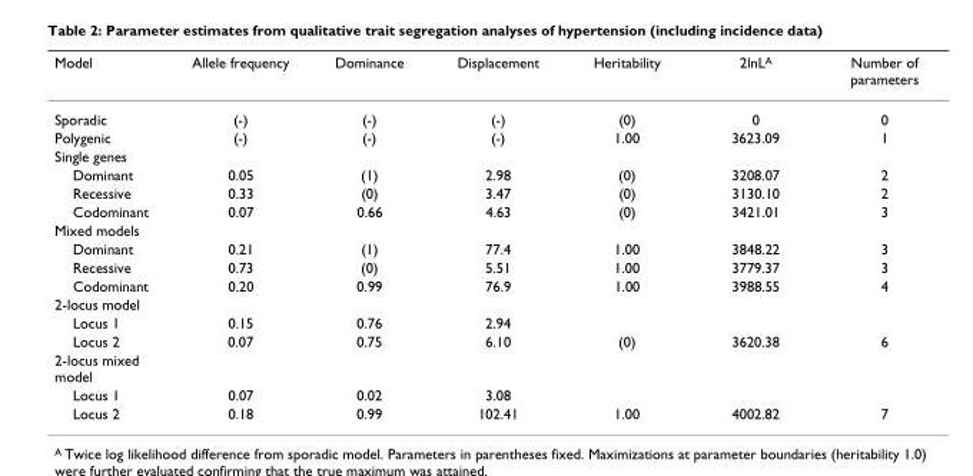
<table><thead><tr><td>Model</td><td>Allele frequency</td><td>Dominance</td><td>Displacement</td><td>Heritability</td><td>2lnLA</td><td>Number of parameters</td></tr></thead><tbody><tr><td>Sporadic</td><td>(-)</td><td>(-)</td><td>(-)</td><td>(0)</td><td>0</td><td>0</td></tr><tr><td>Polygenic</td><td>(-)</td><td>(-)</td><td>(-)</td><td>1.00</td><td>3623.09</td><td>1</td></tr><tr><td colspan="7">Single genes</td></tr><tr><td>Dominant</td><td>0.05</td><td>(1)</td><td>2.98</td><td>(0)</td><td>3208.07</td><td>2</td></tr><tr><td>Recessive</td><td>0.33</td><td>(0)</td><td>3.47</td><td>(0)</td><td>3130.10</td><td>2</td></tr><tr><td>Codominant</td><td>0.07</td><td>0.66</td><td>4.63</td><td>(0)</td><td>3421.01</td><td>3</td></tr><tr><td colspan="7">Mixed models</td></tr><tr><td>Dominant</td><td>0.21</td><td>(1)</td><td>77.4</td><td>1.00</td><td>3848.22</td><td>3</td></tr><tr><td>Recessive</td><td>0.73</td><td>(0)</td><td>5.51</td><td>1.00</td><td>3779.37</td><td>3</td></tr><tr><td>Codominant</td><td>0.20</td><td>0.99</td><td>76.9</td><td>1.00</td><td>3988.55</td><td>4</td></tr><tr><td colspan="7">2-locus model</td></tr><tr><td>Locus 1</td><td>0.15</td><td>0.76</td><td>2.94</td><td></td><td></td><td></td></tr><tr><td>Locus 2</td><td>0.07</td><td>0.75</td><td>6.10</td><td>(0)</td><td>3620.38</td><td>6</td></tr><tr><td colspan="7">2-locus mixed model</td></tr><tr><td>Locus 1</td><td>0.07</td><td>0.02</td><td>3.08</td><td></td><td></td><td></td></tr><tr><td>Locus 2</td><td>0.18</td><td>0.99</td><td>102.41</td><td>1.00</td><td>4002.82</td><td>7</td></tr></tbody></table>